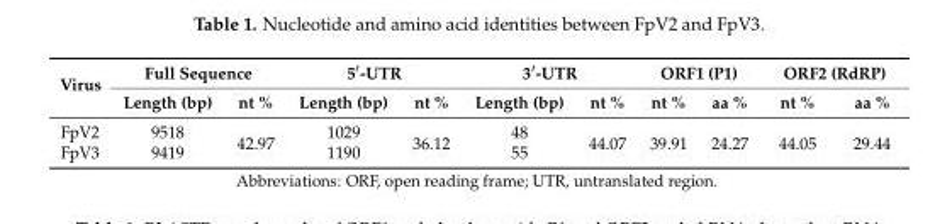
<table><thead><tr><td rowspan="2">Virus</td><td colspan="2">Full Sequence</td><td colspan="2">5′-UTR</td><td colspan="2">3′-UTR</td><td colspan="2">ORF1 (P1)</td><td colspan="2">ORF2 (RdRP)</td></tr><tr><td>Length (bp)</td><td>nt %</td><td>Length (bp)</td><td>nt %</td><td>Length (bp)</td><td>nt %</td><td>nt %</td><td>aa %</td><td>nt %</td><td>aa %</td></tr></thead><tbody><tr><td>FpV2</td><td>9518</td><td rowspan="2">42.97</td><td>1029</td><td rowspan="2">36.12</td><td>48</td><td rowspan="2">44.07</td><td rowspan="2">39.91</td><td rowspan="2">24.27</td><td rowspan="2">44.05</td><td rowspan="2">29.44</td></tr><tr><td>FpV3</td><td>9419</td><td>1190</td><td>55</td></tr></tbody></table>